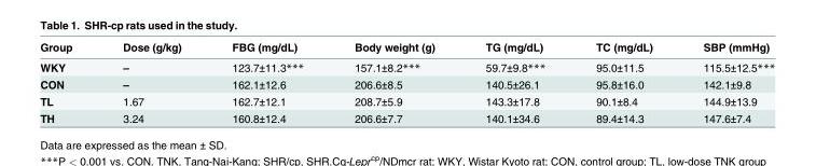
<table><thead><tr><td>Group</td><td>Dose (g/kg)</td><td>FBG (mg/dL)</td><td>Body weight (g)</td><td>TG (mg/dL)</td><td>TC (mg/dL)</td><td>SBP (mmHg)</td></tr></thead><tbody><tr><td>WKY</td><td>–</td><td>123.7±11.3***</td><td>157.1±8.2***</td><td>59.7±9.8***</td><td>95.0±11.5</td><td>115.5±12.5***</td></tr><tr><td>CON</td><td>–</td><td>162.1±12.6</td><td>206.6±8.5</td><td>140.5±26.1</td><td>95.8±16.0</td><td>142.1±9.8</td></tr><tr><td>TL</td><td>1.67</td><td>162.7±12.1</td><td>208.7±5.9</td><td>143.3±17.8</td><td>90.1±8.4</td><td>144.9±13.9</td></tr><tr><td>TH</td><td>3.24</td><td>160.8±12.4</td><td>206.6±7.7</td><td>140.1±34.6</td><td>89.4±14.3</td><td>147.6±7.4</td></tr></tbody></table>